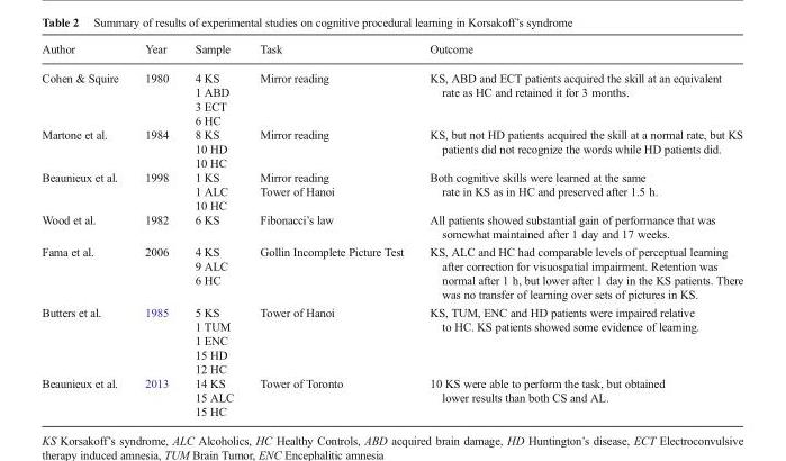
<table><thead><tr><td>Author</td><td>Year</td><td>Sample</td><td>Task</td><td>Outcome</td></tr></thead><tbody><tr><td>Cohen &amp; Squire</td><td>1980</td><td>4 KS 1 ABD 3 ECT 6 HC</td><td>Mirror reading</td><td>KS, ABD and ECT patients acquired the skill at an equivalent rate as HC and retained it for 3 months.</td></tr><tr><td>Martone et al.</td><td>1984</td><td>8 KS 10 HD 10 HC</td><td>Mirror reading</td><td>KS, but not HD patients acquired the skill at a normal rate, but KS patients did not recognize the words while HD patients did.</td></tr><tr><td>Beaunieux et al.</td><td>1998</td><td>1 KS 1 ALC 10 HC</td><td>Mirror reading Tower of Hanoi</td><td>Both cognitive skills were learned at the same rate in KS as in HC and preserved after 1.5 h.</td></tr><tr><td>Wood et al.</td><td>1982</td><td>6 KS</td><td>Fibonacci’s law</td><td>All patients showed substantial gain of performance that was somewhat maintained after 1 day and 17 weeks.</td></tr><tr><td>Fama et al.</td><td>2006</td><td>4 KS 9 ALC 6 HC</td><td>Gollin Incomplete Picture Test</td><td>KS, ALC and HC had comparable levels of perceptual learning after correction for visuospatial impairment. Retention was normal after 1 h, but lower after 1 day in the KS patients. There was no transfer of learning over sets of pictures in KS.</td></tr><tr><td>Butters et al.</td><td>1985</td><td>5 KS 1 TUM 1 ENC 15 HD 12 HC</td><td>Tower of Hanoi</td><td>KS, TUM, ENC and HD patients were impaired relative to HC. KS patients showed some evidence of learning.</td></tr><tr><td>Beaunieux et al.</td><td>2013</td><td>14 KS 15 ALC 15 HC</td><td>Tower of Toronto</td><td>10 KS were able to perform the task, but obtained lower results than both CS and AL.</td></tr></tbody></table>